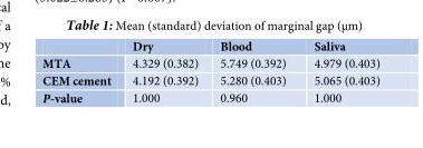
<table><thead><tr><td></td><td>Dry</td><td>Blood</td><td>Saliva</td></tr></thead><tbody><tr><td>MTA</td><td>4.329 (0.382)</td><td>5.749 (0.392)</td><td>4.979 (0.403)</td></tr><tr><td>CEM cement</td><td>4.192 (0.392)</td><td>5.280 (0.403)</td><td>5.065 (0.403)</td></tr><tr><td>P-value</td><td>1.000</td><td>0.960</td><td>1.000</td></tr></tbody></table>